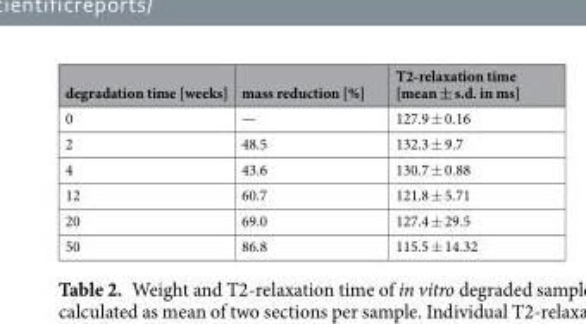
<table><thead><tr><td>degradation time [weeks]</td><td>mass reduction [%]</td><td>T2-relaxation time [mean ± s.d. in ms]</td></tr></thead><tbody><tr><td>0</td><td>—</td><td>127.9 ± 0.16</td></tr><tr><td>2</td><td>48.5</td><td>132.3 ± 9.7</td></tr><tr><td>4</td><td>43.6</td><td>130.7 ± 0.88</td></tr><tr><td>12</td><td>60.7</td><td>121.8 ± 5.71</td></tr><tr><td>20</td><td>69.0</td><td>127.4 ± 29.5</td></tr><tr><td>50</td><td>86.8</td><td>115.5 ± 14.32</td></tr></tbody></table>